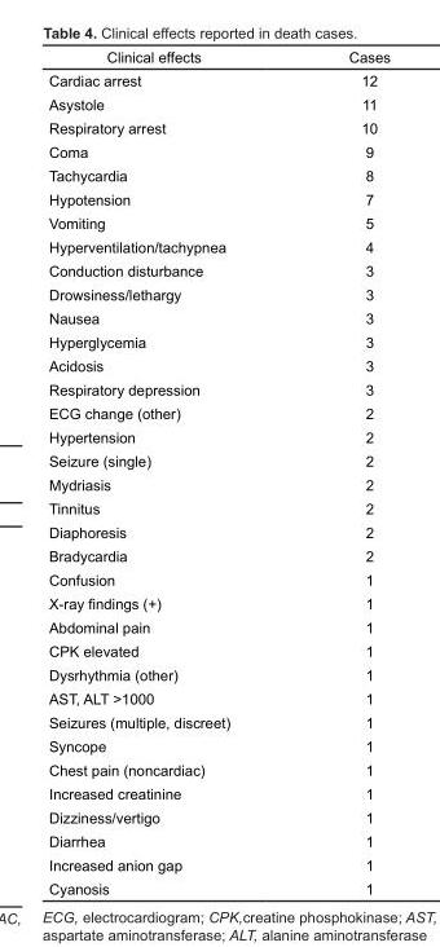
<table><thead><tr><td>Clinical effects</td><td>Cases</td></tr></thead><tbody><tr><td>Cardiac arrest</td><td>12</td></tr><tr><td>Asystole</td><td>11</td></tr><tr><td>Respiratory arrest</td><td>10</td></tr><tr><td>Coma</td><td>9</td></tr><tr><td>Tachycardia</td><td>8</td></tr><tr><td>Hypotension</td><td>7</td></tr><tr><td>Vomiting</td><td>5</td></tr><tr><td>Hyperventilation/tachypnea</td><td>4</td></tr><tr><td>Conduction disturbance</td><td>3</td></tr><tr><td>Drowsiness/lethargy</td><td>3</td></tr><tr><td>Nausea</td><td>3</td></tr><tr><td>Hyperglycemia</td><td>3</td></tr><tr><td>Acidosis</td><td>3</td></tr><tr><td>Respiratory depression</td><td>3</td></tr><tr><td>ECG change (other)</td><td>2</td></tr><tr><td>Hypertension</td><td>2</td></tr><tr><td>Seizure (single)</td><td>2</td></tr><tr><td>Mydriasis</td><td>2</td></tr><tr><td>Tinnitus</td><td>2</td></tr><tr><td>Diaphoresis</td><td>2</td></tr><tr><td>Bradycardia</td><td>2</td></tr><tr><td>Confusion</td><td>1</td></tr><tr><td>X-ray findings (+)</td><td>1</td></tr><tr><td>Abdominal pain</td><td>1</td></tr><tr><td>CPK elevated</td><td>1</td></tr><tr><td>Dysrhythmia (other)</td><td>1</td></tr><tr><td>AST, ALT &gt;1000</td><td>1</td></tr><tr><td>Seizures (multiple, discreet)</td><td>1</td></tr><tr><td>Syncope</td><td>1</td></tr><tr><td>Chest pain (noncardiac)</td><td>1</td></tr><tr><td>Increased creatinine</td><td>1</td></tr><tr><td>Dizziness/vertigo</td><td>1</td></tr><tr><td>Diarrhea</td><td>1</td></tr><tr><td>Increased anion gap</td><td>1</td></tr><tr><td>Cyanosis</td><td>1</td></tr></tbody></table>